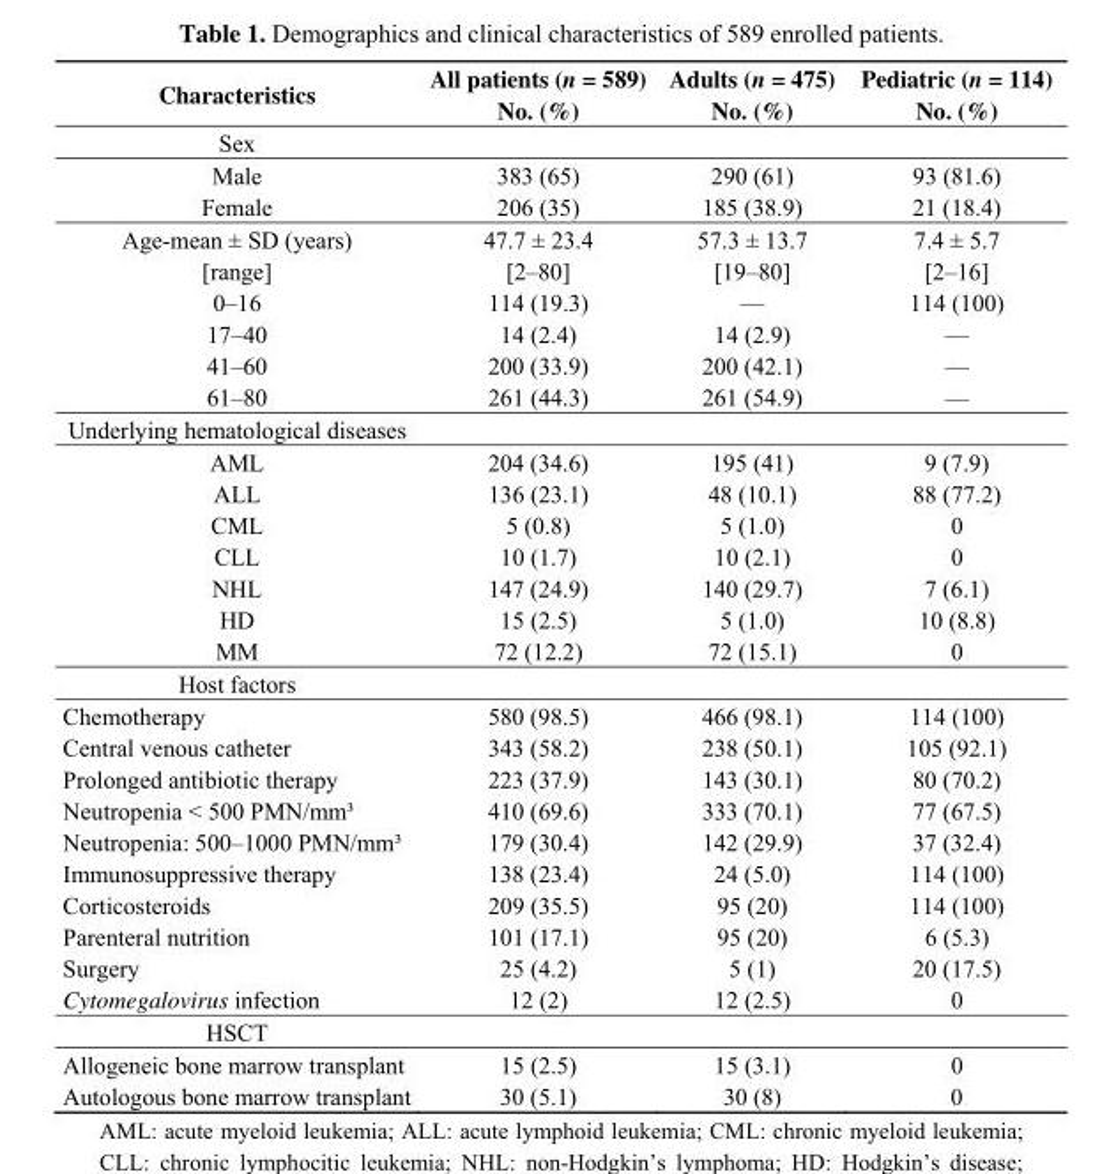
<table><thead><tr><td>Characteristics</td><td>All patients (n = 589) No. (%)</td><td>Adults (n = 475) No. (%)</td><td>Pediatric (n = 114) No. (%)</td></tr></thead><tbody><tr><td colspan="4">Sex</td></tr><tr><td>Male</td><td>383 (65)</td><td>290 (61)</td><td>93 (81.6)</td></tr><tr><td>Female</td><td>206 (35)</td><td>185 (38.9)</td><td>21 (18.4)</td></tr><tr><td>Age-mean ± SD (years)</td><td>47.7 ± 23.4</td><td>57.3 ± 13.7</td><td>7.4 ± 5.7</td></tr><tr><td>[range]</td><td>[2–80]</td><td>[19–80]</td><td>[2–16]</td></tr><tr><td>0–16</td><td>114 (19.3)</td><td>—</td><td>114 (100)</td></tr><tr><td>17–40</td><td>14 (2.4)</td><td>14 (2.9)</td><td>—</td></tr><tr><td>41–60</td><td>200 (33.9)</td><td>200 (42.1)</td><td>—</td></tr><tr><td>61–80</td><td>261 (44.3)</td><td>261 (54.9)</td><td>—</td></tr><tr><td colspan="4">Underlying hematological diseases</td></tr><tr><td>AML</td><td>204 (34.6)</td><td>195 (41)</td><td>9 (7.9)</td></tr><tr><td>ALL</td><td>136 (23.1)</td><td>48 (10.1)</td><td>88 (77.2)</td></tr><tr><td>CML</td><td>5 (0.8)</td><td>5 (1.0)</td><td>0</td></tr><tr><td>CLL</td><td>10 (1.7)</td><td>10 (2.1)</td><td>0</td></tr><tr><td>NHL</td><td>147 (24.9)</td><td>140 (29.7)</td><td>7 (6.1)</td></tr><tr><td>HD</td><td>15 (2.5)</td><td>5 (1.0)</td><td>10 (8.8)</td></tr><tr><td>MM</td><td>72 (12.2)</td><td>72 (15.1)</td><td>0</td></tr><tr><td colspan="4">Host factors</td></tr><tr><td>Chemotherapy</td><td>580 (98.5)</td><td>466 (98.1)</td><td>114 (100)</td></tr><tr><td>Central venous catheter</td><td>343 (58.2)</td><td>238 (50.1)</td><td>105 (92.1)</td></tr><tr><td>Prolonged antibiotic therapy</td><td>223 (37.9)</td><td>143 (30.1)</td><td>80 (70.2)</td></tr><tr><td>Neutropenia &lt; 500 PMN/mm³</td><td>410 (69.6)</td><td>333 (70.1)</td><td>77 (67.5)</td></tr><tr><td>Neutropenia: 500–1000 PMN/mm³</td><td>179 (30.4)</td><td>142 (29.9)</td><td>37 (32.4)</td></tr><tr><td>Immunosuppressive therapy</td><td>138 (23.4)</td><td>24 (5.0)</td><td>114 (100)</td></tr><tr><td>Corticosteroids</td><td>209 (35.5)</td><td>95 (20)</td><td>114 (100)</td></tr><tr><td>Parenteral nutrition</td><td>101 (17.1)</td><td>95 (20)</td><td>6 (5.3)</td></tr><tr><td>Surgery</td><td>25 (4.2)</td><td>5 (1)</td><td>20 (17.5)</td></tr><tr><td>Cytomegalovirus infection</td><td>12 (2)</td><td>12 (2.5)</td><td>0</td></tr><tr><td colspan="4">HSCT</td></tr><tr><td>Allogeneic bone marrow transplant</td><td>15 (2.5)</td><td>15 (3.1)</td><td>0</td></tr><tr><td>Autologous bone marrow transplant</td><td>30 (5.1)</td><td>30 (8)</td><td>0</td></tr></tbody></table>